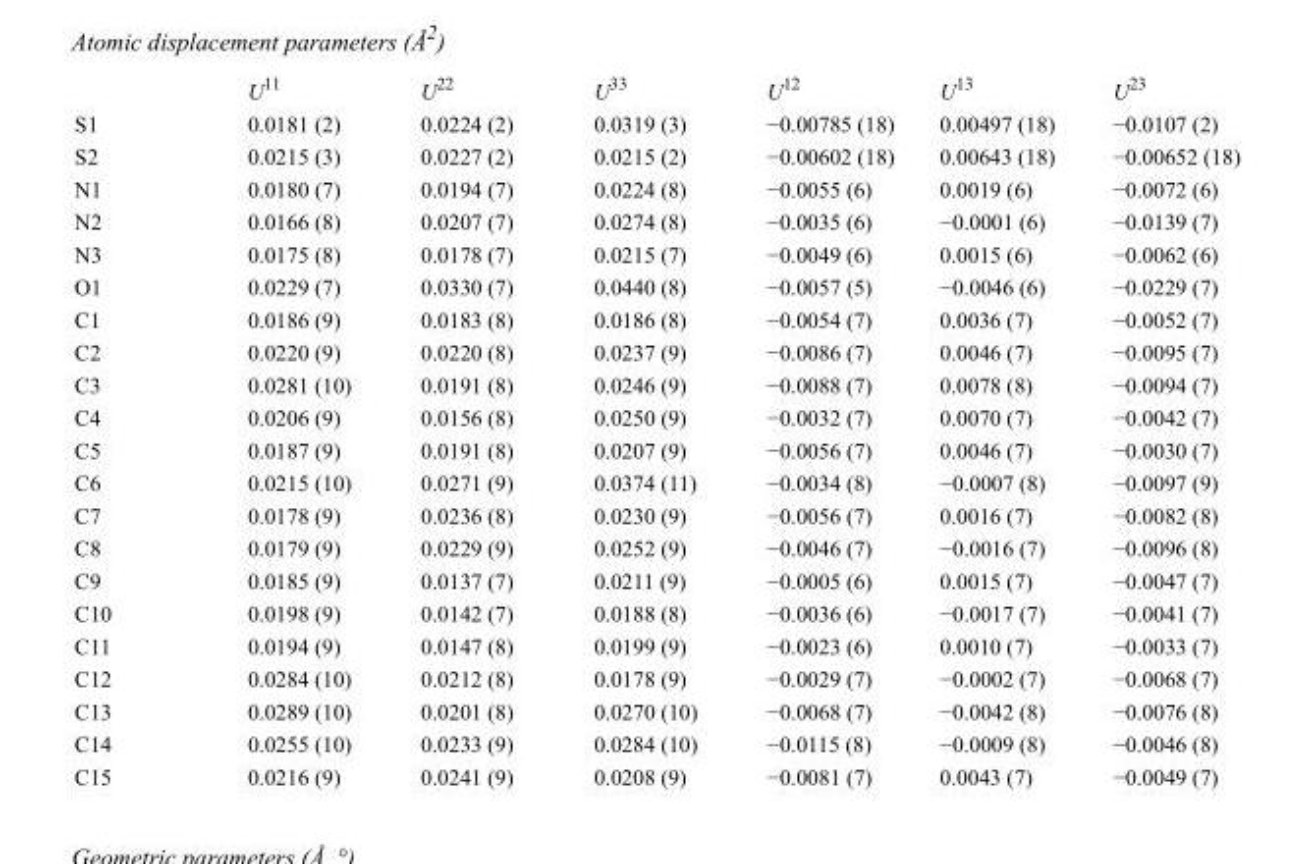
<table><thead><tr><td></td><td>U<sup>11</sup></td><td>U<sup>22</sup></td><td>U<sup>33</sup></td><td>U<sup>12</sup></td><td>U<sup>13</sup></td><td>U<sup>23</sup></td></tr></thead><tbody><tr><td>S1</td><td>0.0181 (2)</td><td>0.0224 (2)</td><td>0.0319 (3)</td><td>−0.00785 (18)</td><td>0.00497 (18)</td><td>−0.0107 (2)</td></tr><tr><td>S2</td><td>0.0215 (3)</td><td>0.0227 (2)</td><td>0.0215 (2)</td><td>−0.00602 (18)</td><td>0.00643 (18)</td><td>−0.00652 (18)</td></tr><tr><td>N1</td><td>0.0180 (7)</td><td>0.0194 (7)</td><td>0.0224 (8)</td><td>−0.0055 (6)</td><td>0.0019 (6)</td><td>−0.0072 (6)</td></tr><tr><td>N2</td><td>0.0166 (8)</td><td>0.0207 (7)</td><td>0.0274 (8)</td><td>−0.0035 (6)</td><td>−0.0001 (6)</td><td>−0.0139 (7)</td></tr><tr><td>N3</td><td>0.0175 (8)</td><td>0.0178 (7)</td><td>0.0215 (7)</td><td>−0.0049 (6)</td><td>0.0015 (6)</td><td>−0.0062 (6)</td></tr><tr><td>O1</td><td>0.0229 (7)</td><td>0.0330 (7)</td><td>0.0440 (8)</td><td>−0.0057 (5)</td><td>−0.0046 (6)</td><td>−0.0229 (7)</td></tr><tr><td>C1</td><td>0.0186 (9)</td><td>0.0183 (8)</td><td>0.0186 (8)</td><td>−0.0054 (7)</td><td>0.0036 (7)</td><td>−0.0052 (7)</td></tr><tr><td>C2</td><td>0.0220 (9)</td><td>0.0220 (8)</td><td>0.0237 (9)</td><td>−0.0086 (7)</td><td>0.0046 (7)</td><td>−0.0095 (7)</td></tr><tr><td>C3</td><td>0.0281 (10)</td><td>0.0191 (8)</td><td>0.0246 (9)</td><td>−0.0088 (7)</td><td>0.0078 (8)</td><td>−0.0094 (7)</td></tr><tr><td>C4</td><td>0.0206 (9)</td><td>0.0156 (8)</td><td>0.0250 (9)</td><td>−0.0032 (7)</td><td>0.0070 (7)</td><td>−0.0042 (7)</td></tr><tr><td>C5</td><td>0.0187 (9)</td><td>0.0191 (8)</td><td>0.0207 (9)</td><td>−0.0056 (7)</td><td>0.0046 (7)</td><td>−0.0030 (7)</td></tr><tr><td>C6</td><td>0.0215 (10)</td><td>0.0271 (9)</td><td>0.0374 (11)</td><td>−0.0034 (8)</td><td>−0.0007 (8)</td><td>−0.0097 (9)</td></tr><tr><td>C7</td><td>0.0178 (9)</td><td>0.0236 (8)</td><td>0.0230 (9)</td><td>−0.0056 (7)</td><td>0.0016 (7)</td><td>−0.0082 (8)</td></tr><tr><td>C8</td><td>0.0179 (9)</td><td>0.0229 (9)</td><td>0.0252 (9)</td><td>−0.0046 (7)</td><td>−0.0016 (7)</td><td>−0.0096 (8)</td></tr><tr><td>C9</td><td>0.0185 (9)</td><td>0.0137 (7)</td><td>0.0211 (9)</td><td>−0.0005 (6)</td><td>0.0015 (7)</td><td>−0.0047 (7)</td></tr><tr><td>C10</td><td>0.0198 (9)</td><td>0.0142 (7)</td><td>0.0188 (8)</td><td>−0.0036 (6)</td><td>−0.0017 (7)</td><td>−0.0041 (7)</td></tr><tr><td>C11</td><td>0.0194 (9)</td><td>0.0147 (8)</td><td>0.0199 (9)</td><td>−0.0023 (6)</td><td>0.0010 (7)</td><td>−0.0033 (7)</td></tr><tr><td>C12</td><td>0.0284 (10)</td><td>0.0212 (8)</td><td>0.0178 (9)</td><td>−0.0029 (7)</td><td>−0.0002 (7)</td><td>−0.0068 (7)</td></tr><tr><td>C13</td><td>0.0289 (10)</td><td>0.0201 (8)</td><td>0.0270 (10)</td><td>−0.0068 (7)</td><td>−0.0042 (8)</td><td>−0.0076 (8)</td></tr><tr><td>C14</td><td>0.0255 (10)</td><td>0.0233 (9)</td><td>0.0284 (10)</td><td>−0.0115 (8)</td><td>−0.0009 (8)</td><td>−0.0046 (8)</td></tr><tr><td>C15</td><td>0.0216 (9)</td><td>0.0241 (9)</td><td>0.0208 (9)</td><td>−0.0081 (7)</td><td>0.0043 (7)</td><td>−0.0049 (7)</td></tr></tbody></table>